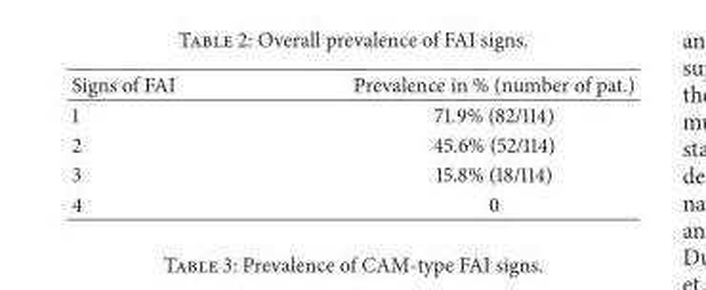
<table><thead><tr><td>Signs of FAI</td><td>Prevalence in % (number of pat.)</td></tr></thead><tbody><tr><td>1</td><td>71.9% (82/114)</td></tr><tr><td>2</td><td>45.6% (52/114)</td></tr><tr><td>3</td><td>15.8% (18/114)</td></tr><tr><td>4</td><td>0</td></tr></tbody></table>